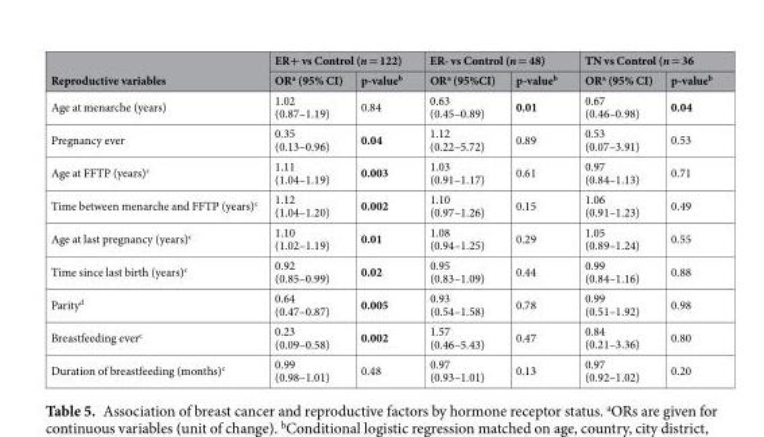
<table><thead><tr><td rowspan="2">Reproductive variables</td><td colspan="2">ER+ vs Control (n = 122)</td><td colspan="2">ER- vs Control (n = 48)</td><td colspan="2">TN vs Control (n = 36</td></tr><tr><td>OR<sup>a</sup> (95% CI)</td><td>p-value<sup>b</sup></td><td>OR<sup>a</sup> (95%CI)</td><td>p-value<sup>b</sup></td><td>OR<sup>a</sup> (95% CI)</td><td>p-value<sup>b</sup></td></tr></thead><tbody><tr><td>Age at menarche (years)</td><td>1.02 (0.87–1.19)</td><td>0.84</td><td>0.63 (0.45–0.89)</td><td>0.01</td><td>0.67 (0.46–0.98)</td><td>0.04</td></tr><tr><td>Pregnancy ever</td><td>0.35 (0.13–0.96)</td><td>0.04</td><td>1.12 (0.22–5.72)</td><td>0.89</td><td>0.53 (0.07–3.91)</td><td>0.53</td></tr><tr><td>Age at FFTP (years)<sup>c</sup></td><td>1.11 (1.04–1.19)</td><td>0.003</td><td>1.03 (0.91–1.17)</td><td>0.61</td><td>0.97 (0.84–1.13)</td><td>0.71</td></tr><tr><td>Time between menarche and FFTP (years)<sup>c</sup></td><td>1.12 (1.04–1.20)</td><td>0.002</td><td>1.10 (0.97–1.26)</td><td>0.15</td><td>1.06 (0.91–1.23)</td><td>0.49</td></tr><tr><td>Age at last pregnancy (years)<sup>c</sup></td><td>1.10 (1.02–1.19)</td><td>0.01</td><td>1.08 (0.94–1.25)</td><td>0.29</td><td>1.05 (0.89–1.24)</td><td>0.55</td></tr><tr><td>Time since last birth (years)<sup>c</sup></td><td>0.92 (0.85–0.99)</td><td>0.02</td><td>0.95 (0.83–1.09)</td><td>0.44</td><td>0.99 (0.84–1.16)</td><td>0.88</td></tr><tr><td>Parity<sup>d</sup></td><td>0.64 (0.47–0.87)</td><td>0.005</td><td>0.93 (0.54–1.58)</td><td>0.78</td><td>0.99 (0.51–1.92)</td><td>0.98</td></tr><tr><td>Breastfeeding ever<sup>c</sup></td><td>0.23 (0.09–0.58)</td><td>0.002</td><td>1.57 (0.46–5.43)</td><td>0.47</td><td>0.84 (0.21–3.36)</td><td>0.80</td></tr><tr><td>Duration of breastfeeding (months)<sup>c</sup></td><td>0.99 (0.98–1.01)</td><td>0.48</td><td>0.97 (0.93–1.01)</td><td>0.13</td><td>0.97 (0.92–1.02)</td><td>0.20</td></tr></tbody></table>